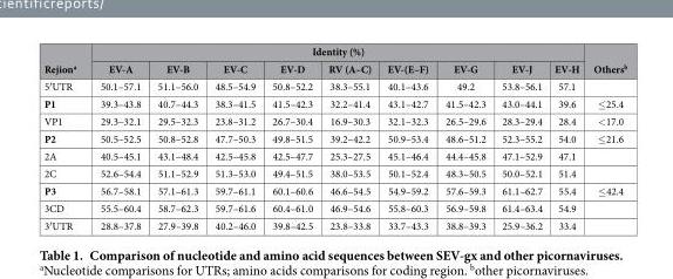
<table><thead><tr><td rowspan="2">Rejion<sup>a</sup></td><td colspan="9">Identity (%)</td><td rowspan="2">Others<sup>b</sup></td></tr><tr><td>EV-A</td><td>EV-B</td><td>EV-C</td><td>EV-D</td><td>RV (A–C)</td><td>EV-(E–F)</td><td>EV-G</td><td>EV-J</td><td>EV-H</td></tr></thead><tbody><tr><td>5′UTR</td><td>50.1–57.1</td><td>51.1–56.0</td><td>48.5–54.9</td><td>50.8–52.2</td><td>38.3–55.1</td><td>40.1–43.6</td><td>49.2</td><td>53.8–56.1</td><td>57.1</td><td></td></tr><tr><td>P1</td><td>39.3–43.8</td><td>40.7–44.3</td><td>38.3–41.5</td><td>41.5–42.3</td><td>32.2–41.4</td><td>43.1–42.7</td><td>41.5–42.3</td><td>43.0–44.1</td><td>39.6</td><td>≤ 25.4</td></tr><tr><td>VP1</td><td>29.3–32.1</td><td>29.5–32.3</td><td>23.8–31.2</td><td>26.7–30.4</td><td>16.9–30.3</td><td>32.1–32.3</td><td>26.5–29.6</td><td>28.3–29.4</td><td>28.4</td><td>&lt; 17.0</td></tr><tr><td>P2</td><td>50.5–52.5</td><td>50.8–52.8</td><td>47.7–50.3</td><td>49.8–51.5</td><td>39.2–42.2</td><td>50.9–53.4</td><td>48.6–51.2</td><td>52.3–55.2</td><td>54.0</td><td>≤ 21.6</td></tr><tr><td>2A</td><td>40.5–45.1</td><td>43.1–48.4</td><td>42.5–45.8</td><td>42.5–47.7</td><td>25.3–27.5</td><td>45.1–46.4</td><td>44.4–45.8</td><td>47.1–52.9</td><td>47.1</td><td></td></tr><tr><td>2C</td><td>52.6–54.4</td><td>51.1–52.9</td><td>51.3–53.0</td><td>49.4–51.5</td><td>38.0–53.5</td><td>50.1–52.4</td><td>48.3–50.5</td><td>50.0–52.1</td><td>51.4</td><td></td></tr><tr><td>P3</td><td>56.7–58.1</td><td>57.1–61.3</td><td>59.7–61.1</td><td>60.1–60.6</td><td>46.6–54.5</td><td>54.9–59.2</td><td>57.6–59.3</td><td>61.1–62.7</td><td>55.4</td><td>≤ 42.4</td></tr><tr><td>3CD</td><td>55.5–60.4</td><td>58.7–62.3</td><td>59.7–61.6</td><td>60.4–61.0</td><td>46.9–54.6</td><td>55.8–60.3</td><td>56.9–59.8</td><td>61.4–63.4</td><td>54.9</td><td></td></tr><tr><td>3′UTR</td><td>28.8–37.8</td><td>27.9–39.8</td><td>40.2–46.0</td><td>39.8–42.5</td><td>23.8–33.8</td><td>33.7–43.3</td><td>38.8–39.3</td><td>25.9–36.2</td><td>33.4</td><td></td></tr></tbody></table>